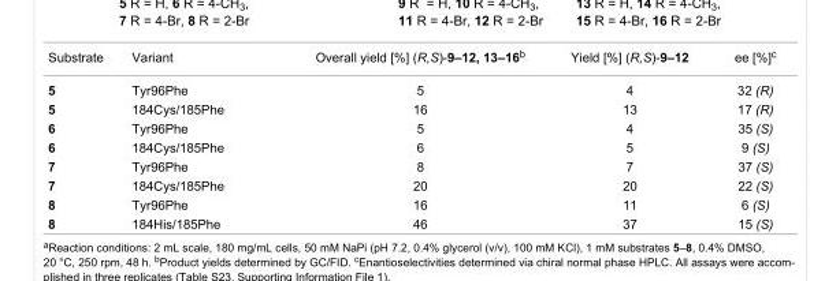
<table><tbody><tr><td>Substrate</td><td>Variant</td><td>Overall yield [%] (R,S)-9–12, 13–16<sup>b</sup></td><td>Yield [%] (R,S)-9–12</td><td>ee [%]<sup>c</sup></td></tr><tr><td>5</td><td>Tyr96Phe</td><td>5</td><td>4</td><td>32 (R)</td></tr><tr><td>5</td><td>184Cys/185Phe</td><td>16</td><td>13</td><td>17 (R)</td></tr><tr><td>6</td><td>Tyr96Phe</td><td>5</td><td>4</td><td>35 (S)</td></tr><tr><td>6</td><td>184Cys/185Phe</td><td>6</td><td>5</td><td>9 (S)</td></tr><tr><td>7</td><td>Tyr96Phe</td><td>8</td><td>7</td><td>37 (S)</td></tr><tr><td>7</td><td>184Cys/185Phe</td><td>20</td><td>20</td><td>22 (S)</td></tr><tr><td>8</td><td>Tyr96Phe</td><td>16</td><td>11</td><td>6 (S)</td></tr><tr><td>8</td><td>184His/185Phe</td><td>46</td><td>37</td><td>15 (S)</td></tr></tbody></table>